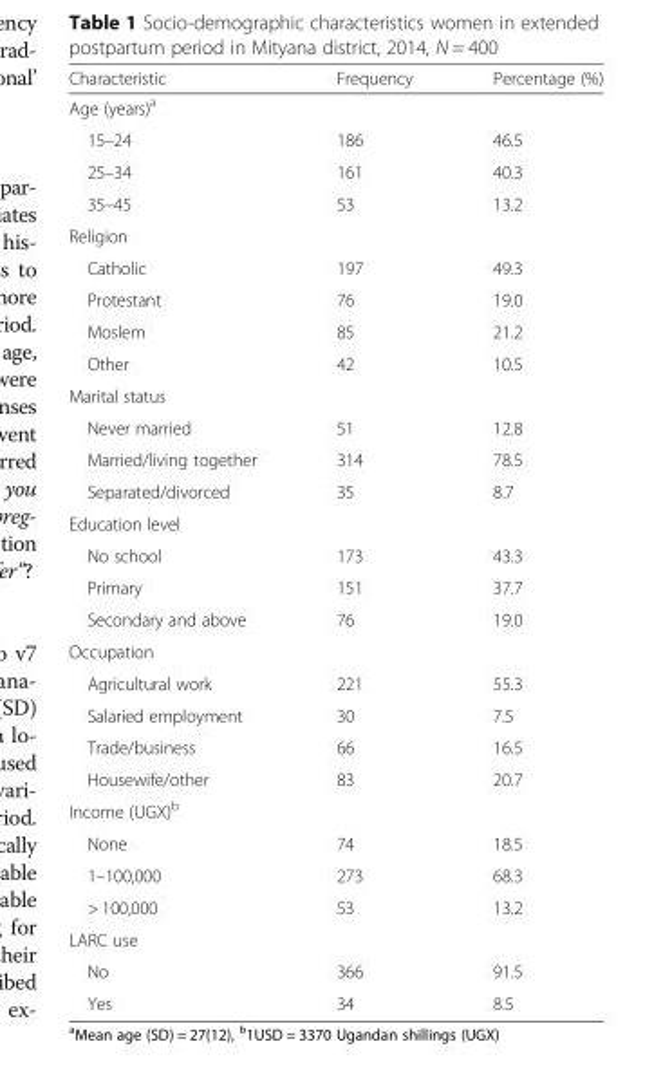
<table><thead><tr><td>Characteristic</td><td>Frequency</td><td>Percentage (%)</td></tr></thead><tbody><tr><td colspan="3">Age (years)<sup>a</sup></td></tr><tr><td>15–24</td><td>186</td><td>46.5</td></tr><tr><td>25–34</td><td>161</td><td>40.3</td></tr><tr><td>35–45</td><td>53</td><td>13.2</td></tr><tr><td colspan="3">Religion</td></tr><tr><td>Catholic</td><td>197</td><td>49.3</td></tr><tr><td>Protestant</td><td>76</td><td>19.0</td></tr><tr><td>Moslem</td><td>85</td><td>21.2</td></tr><tr><td>Other</td><td>42</td><td>10.5</td></tr><tr><td colspan="3">Marital status</td></tr><tr><td>Never married</td><td>51</td><td>12.8</td></tr><tr><td>Married/living together</td><td>314</td><td>78.5</td></tr><tr><td>Separated/divorced</td><td>35</td><td>8.7</td></tr><tr><td colspan="3">Education level</td></tr><tr><td>No school</td><td>173</td><td>43.3</td></tr><tr><td>Primary</td><td>151</td><td>37.7</td></tr><tr><td>Secondary and above</td><td>76</td><td>19.0</td></tr><tr><td colspan="3">Occupation</td></tr><tr><td>Agricultural work</td><td>221</td><td>55.3</td></tr><tr><td>Salaried employment</td><td>30</td><td>7.5</td></tr><tr><td>Trade/business</td><td>66</td><td>16.5</td></tr><tr><td>Housewife/other</td><td>83</td><td>20.7</td></tr><tr><td colspan="3">Income (UGX)<sup>b</sup></td></tr><tr><td>None</td><td>74</td><td>18.5</td></tr><tr><td>1–100,000</td><td>273</td><td>68.3</td></tr><tr><td>&gt; 100,000</td><td>53</td><td>13.2</td></tr><tr><td colspan="3">LARC use</td></tr><tr><td>No</td><td>366</td><td>91.5</td></tr><tr><td>Yes</td><td>34</td><td>8.5</td></tr></tbody></table>